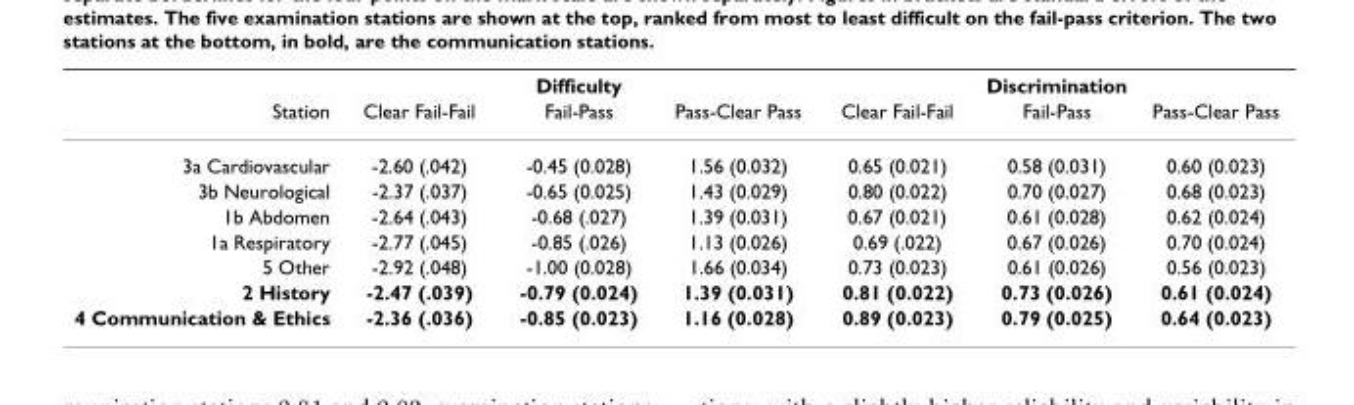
<table><thead><tr><td rowspan="2">Station</td><td colspan="3">Difficulty</td><td colspan="3">Discrimination</td></tr><tr><td>Clear Fail-Fail</td><td>Fail-Pass</td><td>Pass-Clear Pass</td><td>Clear Fail-Fail</td><td>Fail-Pass</td><td>Pass-Clear Pass</td></tr></thead><tbody><tr><td>3a Cardiovascular</td><td>-2.60 (.042)</td><td>-0.45 (0.028)</td><td>1.56 (0.032)</td><td>0.65 (0.021)</td><td>0.58 (0.031)</td><td>0.60 (0.023)</td></tr><tr><td>3b Neurological</td><td>-2.37 (.037)</td><td>-0.65 (0.025)</td><td>1.43 (0.029)</td><td>0.80 (0.022)</td><td>0.70 (0.027)</td><td>0.68 (0.023)</td></tr><tr><td>1b Abdomen</td><td>-2.64 (.043)</td><td>-0.68 (.027)</td><td>1.39 (0.031)</td><td>0.67 (0.021)</td><td>0.61 (0.028)</td><td>0.62 (0.024)</td></tr><tr><td>1a Respiratory</td><td>-2.77 (.045)</td><td>-0.85 (.026)</td><td>1.13 (0.026)</td><td>0.69 (.022)</td><td>0.67 (0.026)</td><td>0.70 (0.024)</td></tr><tr><td>5 Other</td><td>-2.92 (.048)</td><td>-1.00 (0.028)</td><td>1.66 (0.034)</td><td>0.73 (0.023)</td><td>0.61 (0.026)</td><td>0.56 (0.023)</td></tr><tr><td>2 History</td><td>-2.47 (.039)</td><td>-0.79 (0.024)</td><td>1.39 (0.031)</td><td>0.81 (0.022)</td><td>0.73 (0.026)</td><td>0.61 (0.024)</td></tr><tr><td>4 Communication &amp; Ethics</td><td>-2.36 (.036)</td><td>-0.85 (0.023)</td><td>1.16 (0.028)</td><td>0.89 (0.023)</td><td>0.79 (0.025)</td><td>0.64 (0.023)</td></tr></tbody></table>